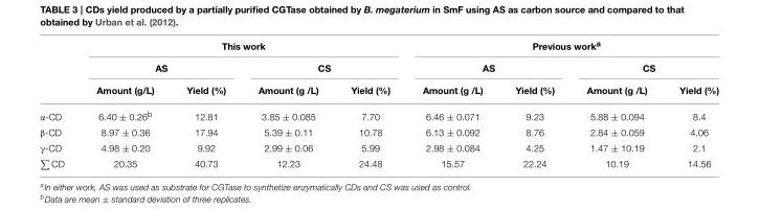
<table><thead><tr><td rowspan="3"></td><td colspan="4">This work</td><td colspan="4">Previous work<sup>a</sup></td></tr><tr><td colspan="2">AS</td><td colspan="2">CS</td><td colspan="2">AS</td><td colspan="2">CS</td></tr><tr><td>Amount (g/L)</td><td>Yield (%)</td><td>Amount (g /L)</td><td>Yield (%)</td><td>Amount (g /L)</td><td>Yield (%)</td><td>Amount (g /L)</td><td>Yield (%)</td></tr></thead><tbody><tr><td>α-CD</td><td>6.40 ± 0.26<sup>b</sup></td><td>12.81</td><td>3.85 ± 0.085</td><td>7.70</td><td>6.46 ± 0.071</td><td>9.23</td><td>5.88 ± 0.094</td><td>8.4</td></tr><tr><td>β-CD</td><td>8.97 ± 0.36</td><td>17.94</td><td>5.39 ± 0.11</td><td>10.78</td><td>6.13 ± 0.092</td><td>8.76</td><td>2.84 ± 0.059</td><td>4.06</td></tr><tr><td>γ-CD</td><td>4.98 ± 0.20</td><td>9.92</td><td>2.99 ± 0.06</td><td>5.99</td><td>2.98 ± 0.084</td><td>4.25</td><td>1.47 ± 10.19</td><td>2.1</td></tr><tr><td>CD</td><td>20.35</td><td>40.73</td><td>12.23</td><td>24.48</td><td>15.57</td><td>22.24</td><td>10.19</td><td>14.56</td></tr></tbody></table>